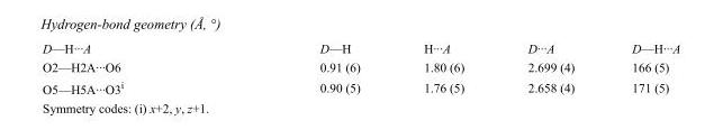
<table><tbody><tr><td>D—H···A</td><td>D—H</td><td>H···A</td><td>D···A</td><td>D—H···A</td></tr><tr><td>O2—H2A···O6</td><td>0.91 (6)</td><td>1.80 (6)</td><td>2.699 (4)</td><td>166 (5)</td></tr><tr><td>O5—H5A···O3<sup>i</sup></td><td>0.90 (5)</td><td>1.76 (5)</td><td>2.658 (4)</td><td>171 (5)</td></tr></tbody></table>